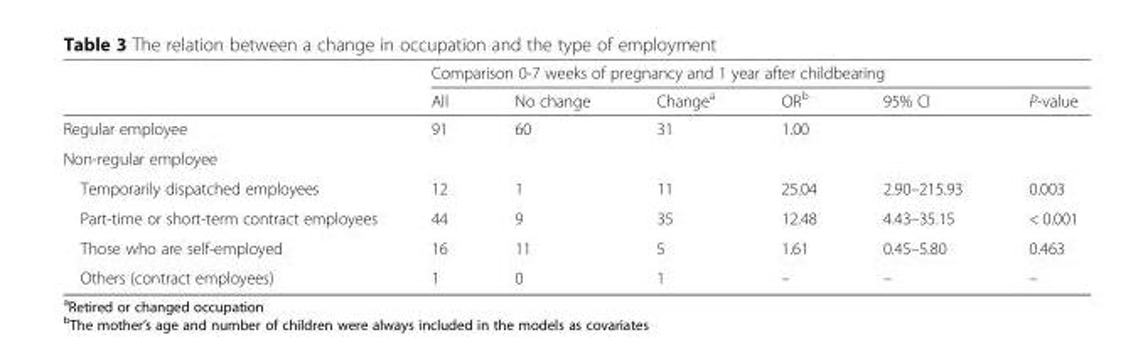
<table><thead><tr><td rowspan="2"></td><td colspan="6">Comparison 0-7 weeks of pregnancy and 1 year after childbearing</td></tr><tr><td>All</td><td>No change</td><td>Change<sup>a</sup></td><td>OR<sup>b</sup></td><td>95% CI</td><td>P-value</td></tr></thead><tbody><tr><td>Regular employee</td><td>91</td><td>60</td><td>31</td><td>1.00</td><td></td><td></td></tr><tr><td colspan="7">Non-regular employee</td></tr><tr><td>Temporarily dispatched employees</td><td>12</td><td>1</td><td>11</td><td>25.04</td><td>2.90–215.93</td><td>0.003</td></tr><tr><td>Part-time or short-term contract employees</td><td>44</td><td>9</td><td>35</td><td>12.48</td><td>4.43–35.15</td><td>&lt; 0.001</td></tr><tr><td>Those who are self-employed</td><td>16</td><td>11</td><td>5</td><td>1.61</td><td>0.45–5.80</td><td>0.463</td></tr><tr><td>Others (contract employees)</td><td>1</td><td>0</td><td>1</td><td>–</td><td>–</td><td>–</td></tr></tbody></table>